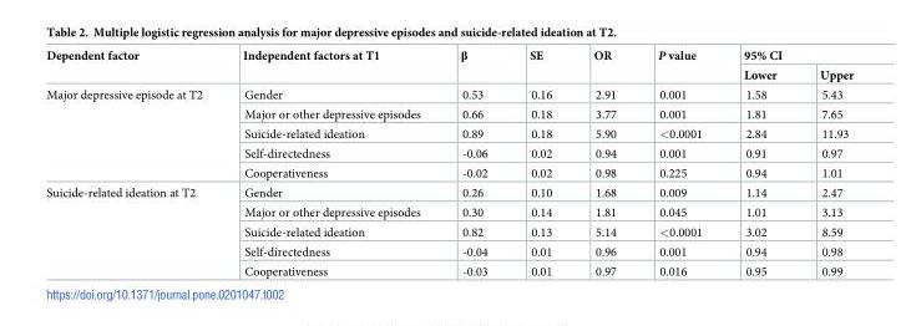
<table><thead><tr><td rowspan="2">Dependent factor</td><td rowspan="2">Independent factors at T1</td><td rowspan="2">β</td><td rowspan="2">SE</td><td rowspan="2">OR</td><td rowspan="2">P value</td><td colspan="2">95% CI</td></tr><tr><td>Lower</td><td>Upper</td></tr></thead><tbody><tr><td rowspan="5">Major depressive episode at T2</td><td>Gender</td><td>0.53</td><td>0.16</td><td>2.91</td><td>0.001</td><td>1.58</td><td>5.43</td></tr><tr><td>Major or other depressive episodes</td><td>0.66</td><td>0.18</td><td>3.77</td><td>0.001</td><td>1.81</td><td>7.65</td></tr><tr><td>Suicide-related ideation</td><td>0.89</td><td>0.18</td><td>5.90</td><td>&lt;0.0001</td><td>2.84</td><td>11.93</td></tr><tr><td>Self-directedness</td><td>-0.06</td><td>0.02</td><td>0.94</td><td>0.001</td><td>0.91</td><td>0.97</td></tr><tr><td>Cooperativeness</td><td>-0.02</td><td>0.02</td><td>0.98</td><td>0.225</td><td>0.94</td><td>1.01</td></tr><tr><td rowspan="5">Suicide-related ideation at T2</td><td>Gender</td><td>0.26</td><td>0.10</td><td>1.68</td><td>0.009</td><td>1.14</td><td>2.47</td></tr><tr><td>Major or other depressive episodes</td><td>0.30</td><td>0.14</td><td>1.81</td><td>0.045</td><td>1.01</td><td>3.13</td></tr><tr><td>Suicide-related ideation</td><td>0.82</td><td>0.13</td><td>5.14</td><td>&lt;0.0001</td><td>3.02</td><td>8.59</td></tr><tr><td>Self-directedness</td><td>-0.04</td><td>0.01</td><td>0.96</td><td>0.001</td><td>0.94</td><td>0.98</td></tr><tr><td>Cooperativeness</td><td>-0.03</td><td>0.01</td><td>0.97</td><td>0.016</td><td>0.95</td><td>0.99</td></tr></tbody></table>